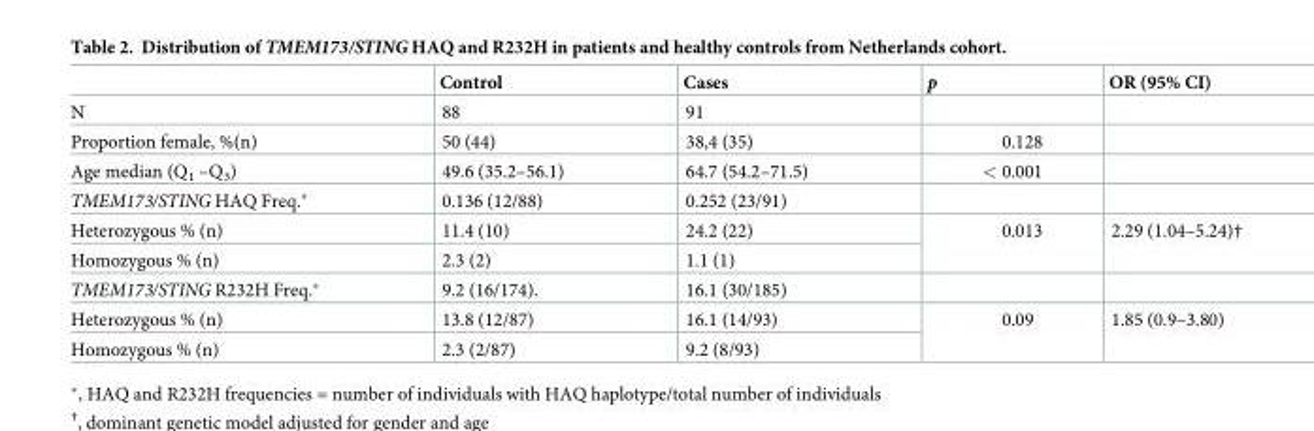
<table><thead><tr><td></td><td>Control</td><td>Cases</td><td>p</td><td>OR (95% CI)</td></tr></thead><tbody><tr><td>N</td><td>88</td><td>91</td><td></td><td></td></tr><tr><td>Proportion female, %(n)</td><td>50 (44)</td><td>38,4 (35)</td><td>0.128</td><td></td></tr><tr><td>Age median (Q<sub>1</sub> –Q<sub>3</sub>)</td><td>49.6 (35.2–56.1)</td><td>64.7 (54.2–71.5)</td><td>&lt; 0.001</td><td></td></tr><tr><td>TMEM173/STING HAQ Freq.*</td><td>0.136 (12/88)</td><td>0.252 (23/91)</td><td></td><td></td></tr><tr><td>Heterozygous % (n)</td><td>11.4 (10)</td><td>24.2 (22)</td><td rowspan="2">0.013</td><td rowspan="2">2.29 (1.04–5.24)†</td></tr><tr><td>Homozygous % (n)</td><td>2.3 (2)</td><td>1.1 (1)</td></tr><tr><td>TMEM173/STING R232H Freq.*</td><td>9.2 (16/174).</td><td>16.1 (30/185)</td><td></td><td></td></tr><tr><td>Heterozygous % (n)</td><td>13.8 (12/87)</td><td>16.1 (14/93)</td><td rowspan="2">0.09</td><td rowspan="2">1.85 (0.9–3.80)</td></tr><tr><td>Homozygous % (n)</td><td>2.3 (2/87)</td><td>9.2 (8/93)</td></tr></tbody></table>